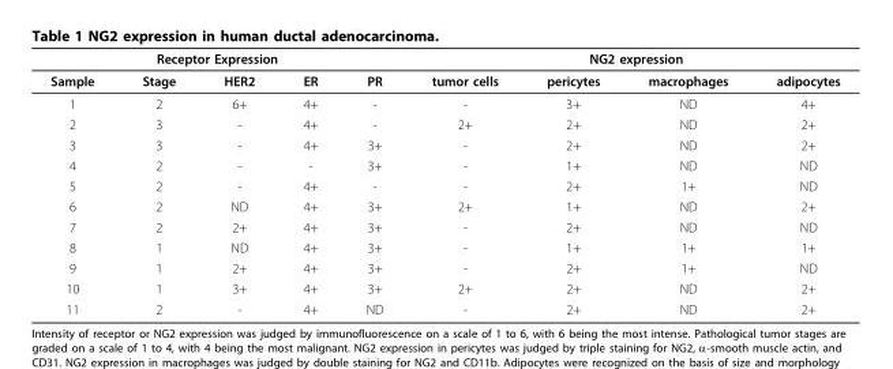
<table><thead><tr><td colspan="5">Receptor Expression</td><td colspan="4">NG2 expression</td></tr><tr><td>Sample</td><td>Stage</td><td>HER2</td><td>ER</td><td>PR</td><td>tumor cells</td><td>pericytes</td><td>macrophages</td><td>adipocytes</td></tr></thead><tbody><tr><td>1</td><td>2</td><td>6+</td><td>4+</td><td>-</td><td>-</td><td>3+</td><td>ND</td><td>4+</td></tr><tr><td>2</td><td>3</td><td>-</td><td>4+</td><td>-</td><td>2+</td><td>2+</td><td>ND</td><td>2+</td></tr><tr><td>3</td><td>3</td><td>-</td><td>4+</td><td>3+</td><td>-</td><td>2+</td><td>ND</td><td>2+</td></tr><tr><td>4</td><td>2</td><td>-</td><td>-</td><td>3+</td><td>-</td><td>1+</td><td>ND</td><td>ND</td></tr><tr><td>5</td><td>2</td><td>-</td><td>4+</td><td>-</td><td>-</td><td>2+</td><td>1+</td><td>ND</td></tr><tr><td>6</td><td>2</td><td>ND</td><td>4+</td><td>3+</td><td>2+</td><td>1+</td><td>ND</td><td>2+</td></tr><tr><td>7</td><td>2</td><td>2+</td><td>4+</td><td>3+</td><td>-</td><td>2+</td><td>ND</td><td>ND</td></tr><tr><td>8</td><td>1</td><td>ND</td><td>4+</td><td>3+</td><td>-</td><td>1+</td><td>1+</td><td>1+</td></tr><tr><td>9</td><td>1</td><td>2+</td><td>4+</td><td>3+</td><td>-</td><td>2+</td><td>1+</td><td>ND</td></tr><tr><td>10</td><td>1</td><td>3+</td><td>4+</td><td>3+</td><td>2+</td><td>2+</td><td>ND</td><td>2+</td></tr><tr><td>11</td><td>2</td><td>-</td><td>4+</td><td>ND</td><td>-</td><td>2+</td><td>ND</td><td>2+</td></tr></tbody></table>